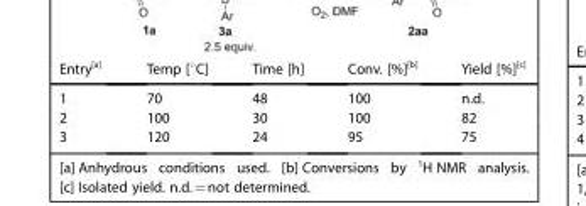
<table><thead><tr><td>Entry<sup>[a]</sup></td><td>Temp [°C]</td><td>Time [h]</td><td>Conv. [%]<sup>[b]</sup></td><td>Yield [%]<sup>[c]</sup></td></tr></thead><tbody><tr><td>1</td><td>70</td><td>48</td><td>100</td><td>n.d.</td></tr><tr><td>2</td><td>100</td><td>30</td><td>100</td><td>82</td></tr><tr><td>3</td><td>120</td><td>24</td><td>95</td><td>75</td></tr></tbody></table>